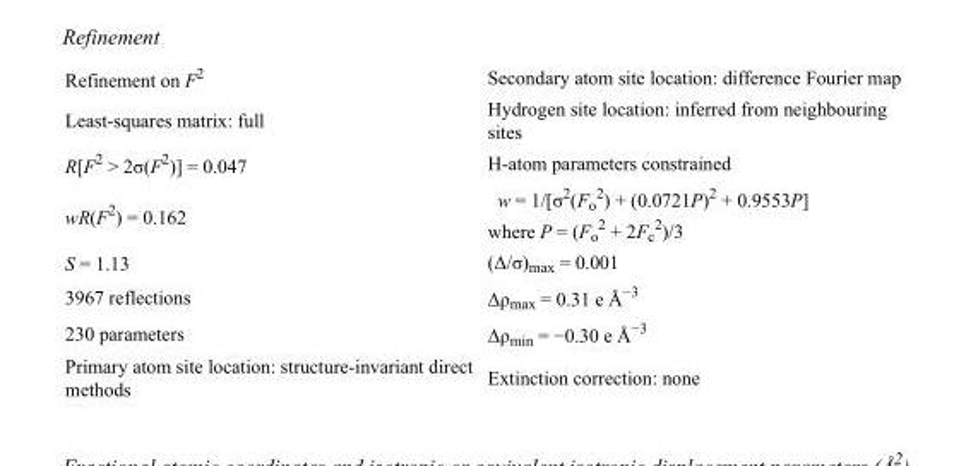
<table><tbody><tr><td>Refinement on F<sup>2</sup></td><td>Secondary atom site location: difference Fourier map</td></tr><tr><td>Least-squares matrix: full</td><td>Hydrogen site location: inferred from neighbouring sites</td></tr><tr><td>R[F<sup>2</sup> &gt; 2σ(F<sup>2</sup>)] = 0.047</td><td>H-atom parameters constrained</td></tr><tr><td>wR(F<sup>2</sup>) = 0.162</td><td>w = 1/[σ<sup>2</sup>(F<sub>o</sub> <sup>2</sup>) + (0.0721P)<sup>2</sup> + 0.9553P] where P = (F<sub>o</sub> <sup>2</sup> + 2F<sub>c</sub> <sup>2</sup>)/3</td></tr><tr><td>S = 1.13</td><td>(Δ/σ)<sub>max</sub> = 0.001</td></tr><tr><td>3967 reflections</td><td>Δρ<sub>max</sub> = 0.31 e Å<sup>−3</sup></td></tr><tr><td>230 parameters</td><td>Δρ<sub>min</sub> = −0.30 e Å<sup>−3</sup></td></tr><tr><td>Primary atom site location: structure-invariant direct methods</td><td>Extinction correction: none</td></tr></tbody></table>